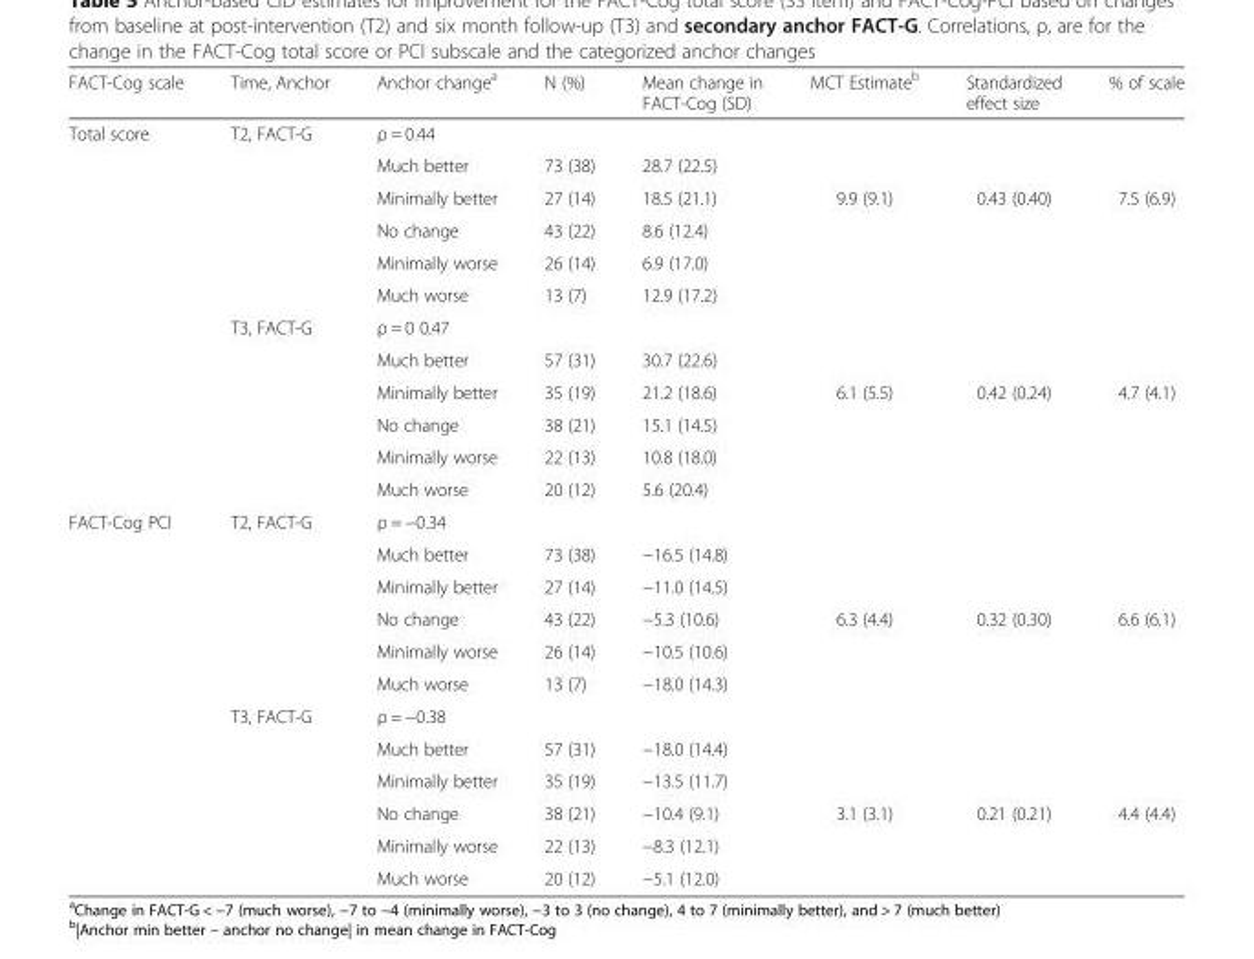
<table><thead><tr><td>FACT-Cog scale</td><td>Time, Anchor</td><td>Anchor change<sup>a</sup></td><td>N (%)</td><td>Mean change in FACT-Cog (SD)</td><td>MCT Estimate<sup>b</sup></td><td>Standardized effect size</td><td>% of scale</td></tr></thead><tbody><tr><td rowspan="12">Total score</td><td rowspan="6">T2, FACT-G</td><td colspan="5">ρ = 0.44</td><td></td></tr><tr><td>Much better</td><td>73 (38)</td><td>28.7 (22.5)</td><td></td><td></td><td></td></tr><tr><td>Minimally better</td><td>27 (14)</td><td>18.5 (21.1)</td><td>9.9 (9.1)</td><td>0.43 (0.40)</td><td>7.5 (6.9)</td></tr><tr><td>No change</td><td>43 (22)</td><td>8.6 (12.4)</td><td></td><td></td><td></td></tr><tr><td>Minimally worse</td><td>26 (14)</td><td>6.9 (17.0)</td><td></td><td></td><td></td></tr><tr><td>Much worse</td><td>13 (7)</td><td>12.9 (17.2)</td><td></td><td></td><td></td></tr><tr><td rowspan="6">T3, FACT-G</td><td colspan="5">ρ = 0 0.47</td><td></td></tr><tr><td>Much better</td><td>57 (31)</td><td>30.7 (22.6)</td><td></td><td></td><td></td></tr><tr><td>Minimally better</td><td>35 (19)</td><td>21.2 (18.6)</td><td>6.1 (5.5)</td><td>0.42 (0.24)</td><td>4.7 (4.1)</td></tr><tr><td>No change</td><td>38 (21)</td><td>15.1 (14.5)</td><td></td><td></td><td></td></tr><tr><td>Minimally worse</td><td>22 (13)</td><td>10.8 (18.0)</td><td></td><td></td><td></td></tr><tr><td>Much worse</td><td>20 (12)</td><td>5.6 (20.4)</td><td></td><td></td><td></td></tr><tr><td rowspan="12">FACT-Cog PCI</td><td rowspan="6">T2, FACT-G</td><td colspan="5">ρ = −0.34</td><td></td></tr><tr><td>Much better</td><td>73 (38)</td><td>−16.5 (14.8)</td><td></td><td></td><td></td></tr><tr><td>Minimally better</td><td>27 (14)</td><td>−11.0 (14.5)</td><td></td><td></td><td></td></tr><tr><td>No change</td><td>43 (22)</td><td>−5.3 (10.6)</td><td>6.3 (4.4)</td><td>0.32 (0.30)</td><td>6.6 (6.1)</td></tr><tr><td>Minimally worse</td><td>26 (14)</td><td>−10.5 (10.6)</td><td></td><td></td><td></td></tr><tr><td>Much worse</td><td>13 (7)</td><td>−18.0 (14.3)</td><td></td><td></td><td></td></tr><tr><td rowspan="6">T3, FACT-G</td><td colspan="5">ρ = −0.38</td><td></td></tr><tr><td>Much better</td><td>57 (31)</td><td>−18.0 (14.4)</td><td></td><td></td><td></td></tr><tr><td>Minimally better</td><td>35 (19)</td><td>−13.5 (11.7)</td><td></td><td></td><td></td></tr><tr><td>No change</td><td>38 (21)</td><td>−10.4 (9.1)</td><td>3.1 (3.1)</td><td>0.21 (0.21)</td><td>4.4 (4.4)</td></tr><tr><td>Minimally worse</td><td>22 (13)</td><td>−8.3 (12.1)</td><td></td><td></td><td></td></tr><tr><td>Much worse</td><td>20 (12)</td><td>−5.1 (12.0)</td><td></td><td></td><td></td></tr></tbody></table>